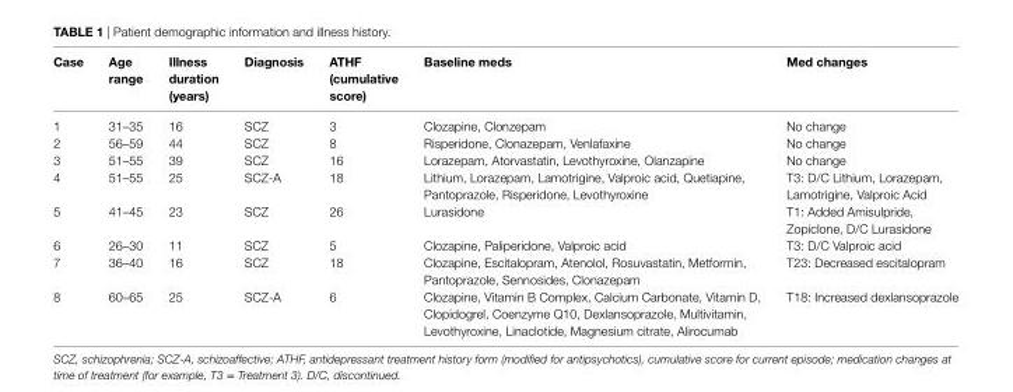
<table><thead><tr><td>Case</td><td>age range</td><td>illness duration (years)</td><td>Diagnosis</td><td>aTHF (cumulative score)</td><td>baseline meds</td><td>Med changes</td></tr></thead><tbody><tr><td>1</td><td>31–35</td><td>16</td><td>SCZ</td><td>3</td><td>Clozapine, Clonzepam</td><td>No change</td></tr><tr><td>2</td><td>56–59</td><td>44</td><td>SCZ</td><td>8</td><td>Risperidone, Clonazepam, Venlafaxine</td><td>No change</td></tr><tr><td>3</td><td>51–55</td><td>39</td><td>SCZ</td><td>16</td><td>Lorazepam, Atorvastatin, Levothyroxine, Olanzapine</td><td>No change</td></tr><tr><td>4</td><td>51–55</td><td>25</td><td>SCZ-A</td><td>18</td><td>Lithium, Lorazepam, Lamotrigine, Valproic acid, Quetiapine, Pantoprazole, Risperidone, Levothyroxine</td><td>T3: D/C Lithium, Lorazepam, Lamotrigine, Valproic Acid</td></tr><tr><td>5</td><td>41–45</td><td>23</td><td>SCZ</td><td>26</td><td>Lurasidone</td><td>T1: Added Amisulpride, Zopiclone, D/C Lurasidone</td></tr><tr><td>6</td><td>26–30</td><td>11</td><td>SCZ</td><td>5</td><td>Clozapine, Paliperidone, Valproic acid</td><td>T3: D/C Valproic acid</td></tr><tr><td>7</td><td>36–40</td><td>16</td><td>SCZ</td><td>18</td><td>Clozapine, Escitalopram, Atenolol, Rosuvastatin, Metformin, Pantoprazole, Sennosides, Clonazepam</td><td>T23: Decreased escitalopram</td></tr><tr><td>8</td><td>60–65</td><td>25</td><td>SCZ-A</td><td>6</td><td>Clozapine, Vitamin B Complex, Calcium Carbonate, Vitamin D, Clopidogrel, Coenzyme Q10, Dexlansoprazole, Multivitamin, Levothyroxine, Linaclotide, Magnesium citrate, Alirocumab</td><td>T18: Increased dexlansoprazole</td></tr></tbody></table>